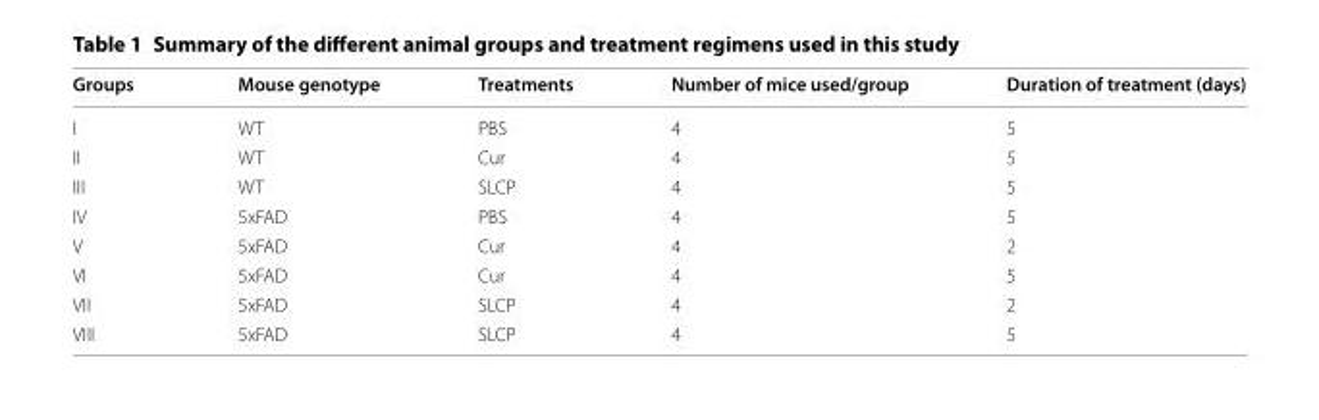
<table><thead><tr><td>Groups</td><td>Mouse genotype</td><td>Treatments</td><td>Number of mice used/group</td><td>Duration of treatment (days)</td></tr></thead><tbody><tr><td>I</td><td>WT</td><td>PBS</td><td>4</td><td>5</td></tr><tr><td>II</td><td>WT</td><td>Cur</td><td>4</td><td>5</td></tr><tr><td>III</td><td>WT</td><td>SLCP</td><td>4</td><td>5</td></tr><tr><td>IV</td><td>5xFAD</td><td>PBS</td><td>4</td><td>5</td></tr><tr><td>V</td><td>5xFAD</td><td>Cur</td><td>4</td><td>2</td></tr><tr><td>VI</td><td>5xFAD</td><td>Cur</td><td>4</td><td>5</td></tr><tr><td>VII</td><td>5xFAD</td><td>SLCP</td><td>4</td><td>2</td></tr><tr><td>VIII</td><td>5xFAD</td><td>SLCP</td><td>4</td><td>5</td></tr></tbody></table>